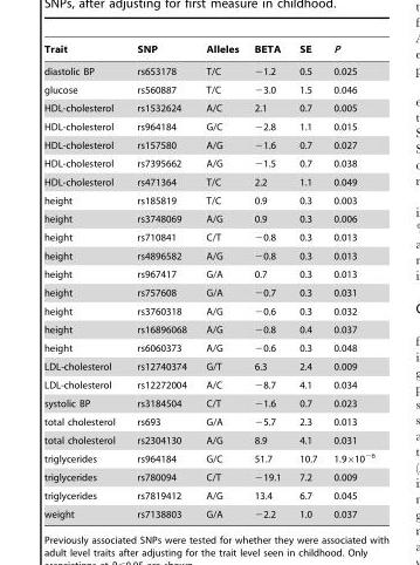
<table><thead><tr><td>Trait</td><td>SNP</td><td>Alleles</td><td>BETA</td><td>SE</td><td>P</td></tr></thead><tbody><tr><td>diastolic BP</td><td>rs653178</td><td>T/C</td><td>−1.2</td><td>0.5</td><td>0.025</td></tr><tr><td>glucose</td><td>rs560887</td><td>T/C</td><td>−3.0</td><td>1.5</td><td>0.046</td></tr><tr><td>HDL-cholesterol</td><td>rs1532624</td><td>A/C</td><td>2.1</td><td>0.7</td><td>0.005</td></tr><tr><td>HDL-cholesterol</td><td>rs964184</td><td>G/C</td><td>−2.8</td><td>1.1</td><td>0.015</td></tr><tr><td>HDL-cholesterol</td><td>rs157580</td><td>A/G</td><td>−1.6</td><td>0.7</td><td>0.027</td></tr><tr><td>HDL-cholesterol</td><td>rs7395662</td><td>A/G</td><td>−1.5</td><td>0.7</td><td>0.038</td></tr><tr><td>HDL-cholesterol</td><td>rs471364</td><td>T/C</td><td>2.2</td><td>1.1</td><td>0.049</td></tr><tr><td>height</td><td>rs185819</td><td>T/C</td><td>0.9</td><td>0.3</td><td>0.003</td></tr><tr><td>height</td><td>rs3748069</td><td>A/G</td><td>0.9</td><td>0.3</td><td>0.006</td></tr><tr><td>height</td><td>rs710841</td><td>C/T</td><td>−0.8</td><td>0.3</td><td>0.013</td></tr><tr><td>height</td><td>rs4896582</td><td>A/G</td><td>−0.8</td><td>0.3</td><td>0.013</td></tr><tr><td>height</td><td>rs967417</td><td>G/A</td><td>0.7</td><td>0.3</td><td>0.013</td></tr><tr><td>height</td><td>rs757608</td><td>G/A</td><td>−0.7</td><td>0.3</td><td>0.031</td></tr><tr><td>height</td><td>rs3760318</td><td>A/G</td><td>−0.6</td><td>0.3</td><td>0.032</td></tr><tr><td>height</td><td>rs16896068</td><td>A/G</td><td>−0.8</td><td>0.4</td><td>0.037</td></tr><tr><td>height</td><td>rs6060373</td><td>A/G</td><td>−0.6</td><td>0.3</td><td>0.048</td></tr><tr><td>LDL-cholesterol</td><td>rs12740374</td><td>G/T</td><td>6.3</td><td>2.4</td><td>0.009</td></tr><tr><td>LDL-cholesterol</td><td>rs12272004</td><td>A/C</td><td>−8.7</td><td>4.1</td><td>0.034</td></tr><tr><td>systolic BP</td><td>rs3184504</td><td>C/T</td><td>−1.6</td><td>0.7</td><td>0.023</td></tr><tr><td>total cholesterol</td><td>rs693</td><td>G/A</td><td>−5.7</td><td>2.3</td><td>0.013</td></tr><tr><td>total cholesterol</td><td>rs2304130</td><td>A/G</td><td>8.9</td><td>4.1</td><td>0.031</td></tr><tr><td>triglycerides</td><td>rs964184</td><td>G/C</td><td>51.7</td><td>10.7</td><td>1.9×10<sup>−6</sup></td></tr><tr><td>triglycerides</td><td>rs780094</td><td>C/T</td><td>−19.1</td><td>7.2</td><td>0.009</td></tr><tr><td>triglycerides</td><td>rs7819412</td><td>A/G</td><td>13.4</td><td>6.7</td><td>0.045</td></tr><tr><td>weight</td><td>rs7138803</td><td>G/A</td><td>−2.2</td><td>1.0</td><td>0.037</td></tr></tbody></table>